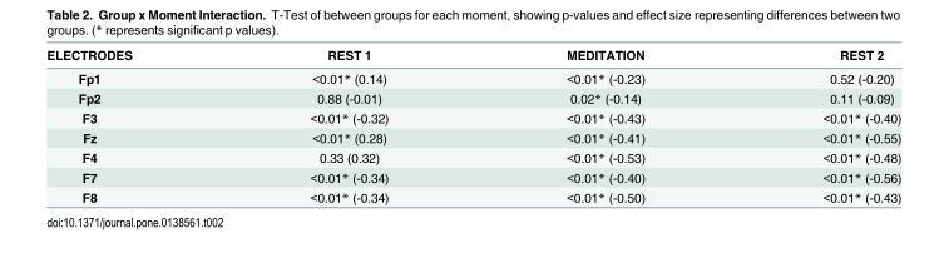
<table><thead><tr><td>ELECTRODES</td><td>REST 1</td><td>MEDITATION</td><td>REST 2</td></tr></thead><tbody><tr><td>Fp1</td><td>&lt;0.01* (0.14)</td><td>&lt;0.01* (-0.23)</td><td>0.52 (-0.20)</td></tr><tr><td>Fp2</td><td>0.88 (-0.01)</td><td>0.02* (-0.14)</td><td>0.11 (-0.09)</td></tr><tr><td>F3</td><td>&lt;0.01* (-0.32)</td><td>&lt;0.01* (-0.43)</td><td>&lt;0.01* (-0.40)</td></tr><tr><td>Fz</td><td>&lt;0.01* (0.28)</td><td>&lt;0.01* (-0.41)</td><td>&lt;0.01* (-0.55)</td></tr><tr><td>F4</td><td>0.33 (0.32)</td><td>&lt;0.01* (-0.53)</td><td>&lt;0.01* (-0.48)</td></tr><tr><td>F7</td><td>&lt;0.01* (-0.34)</td><td>&lt;0.01* (-0.40)</td><td>&lt;0.01* (-0.56)</td></tr><tr><td>F8</td><td>&lt;0.01* (-0.34)</td><td>&lt;0.01* (-0.50)</td><td>&lt;0.01* (-0.43)</td></tr></tbody></table>